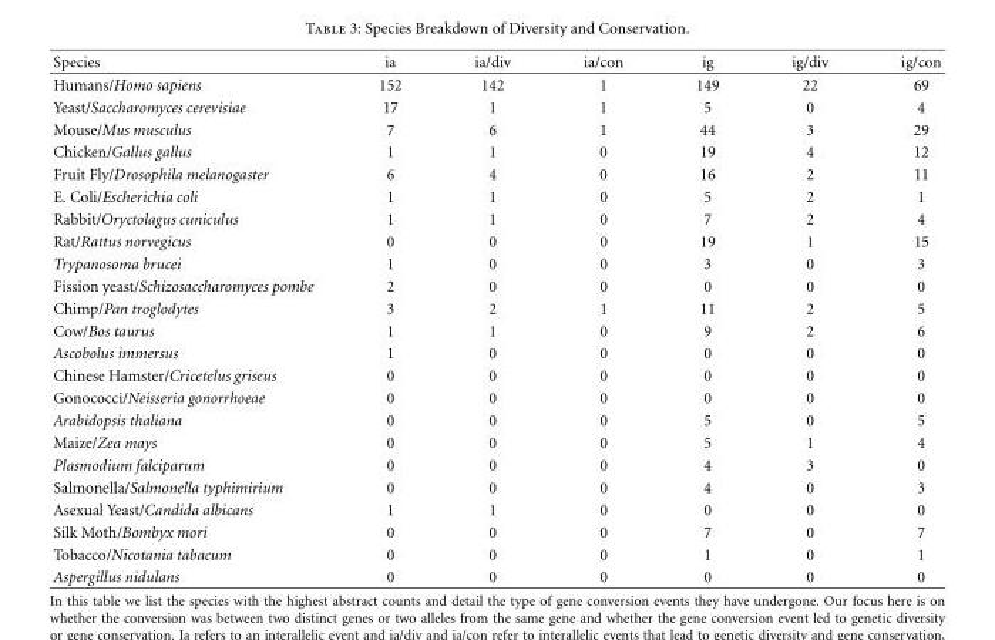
<table><thead><tr><td>Species</td><td>ia</td><td>ia/div</td><td>ia/con</td><td>ig</td><td>ig/div</td><td>ig/con</td></tr></thead><tbody><tr><td>Humans/Homo sapiens</td><td>152</td><td>142</td><td>1</td><td>149</td><td>22</td><td>69</td></tr><tr><td>Yeast/Saccharomyces cerevisiae</td><td>17</td><td>1</td><td>1</td><td>5</td><td>0</td><td>4</td></tr><tr><td>Mouse/Mus musculus</td><td>7</td><td>6</td><td>1</td><td>44</td><td>3</td><td>29</td></tr><tr><td>Chicken/Gallus gallus</td><td>1</td><td>1</td><td>0</td><td>19</td><td>4</td><td>12</td></tr><tr><td>Fruit Fly/Drosophila melanogaster</td><td>6</td><td>4</td><td>0</td><td>16</td><td>2</td><td>11</td></tr><tr><td>E. Coli/Escherichia coli</td><td>1</td><td>1</td><td>0</td><td>5</td><td>2</td><td>1</td></tr><tr><td>Rabbit/Oryctolagus cuniculus</td><td>1</td><td>1</td><td>0</td><td>7</td><td>2</td><td>4</td></tr><tr><td>Rat/Rattus norvegicus</td><td>0</td><td>0</td><td>0</td><td>19</td><td>1</td><td>15</td></tr><tr><td>Trypanosoma brucei</td><td>1</td><td>0</td><td>0</td><td>3</td><td>0</td><td>3</td></tr><tr><td>Fission yeast/Schizosaccharomyces pombe</td><td>2</td><td>0</td><td>0</td><td>0</td><td>0</td><td>0</td></tr><tr><td>Chimp/Pan troglodytes</td><td>3</td><td>2</td><td>1</td><td>11</td><td>2</td><td>5</td></tr><tr><td>Cow/Bos taurus</td><td>1</td><td>1</td><td>0</td><td>9</td><td>2</td><td>6</td></tr><tr><td>Ascobolus immersus</td><td>1</td><td>0</td><td>0</td><td>0</td><td>0</td><td>0</td></tr><tr><td>Chinese Hamster/Cricetelus griseus</td><td>0</td><td>0</td><td>0</td><td>0</td><td>0</td><td>0</td></tr><tr><td>Gonococci/Neisseria gonorrhoeae</td><td>0</td><td>0</td><td>0</td><td>0</td><td>0</td><td>0</td></tr><tr><td>Arabidopsis thaliana</td><td>0</td><td>0</td><td>0</td><td>5</td><td>0</td><td>5</td></tr><tr><td>Maize/Zea mays</td><td>0</td><td>0</td><td>0</td><td>5</td><td>1</td><td>4</td></tr><tr><td>Plasmodium falciparum</td><td>0</td><td>0</td><td>0</td><td>4</td><td>3</td><td>0</td></tr><tr><td>Salmonella/Salmonella typhimirium</td><td>0</td><td>0</td><td>0</td><td>4</td><td>0</td><td>3</td></tr><tr><td>Asexual Yeast/Candida albicans</td><td>1</td><td>1</td><td>0</td><td>0</td><td>0</td><td>0</td></tr><tr><td>Silk Moth/Bombyx mori</td><td>0</td><td>0</td><td>0</td><td>7</td><td>0</td><td>7</td></tr><tr><td>Tobacco/Nicotania tabacum</td><td>0</td><td>0</td><td>0</td><td>1</td><td>0</td><td>1</td></tr><tr><td>Aspergillus nidulans</td><td>0</td><td>0</td><td>0</td><td>0</td><td>0</td><td>0</td></tr></tbody></table>